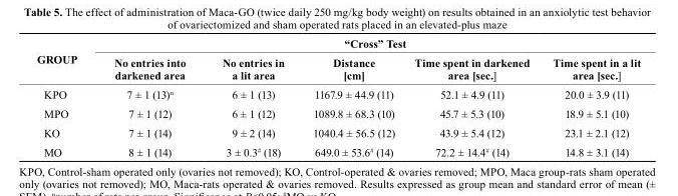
<table><thead><tr><td rowspan="2">GrOUP</td><td colspan="5">“cross” test</td></tr><tr><td>No entries into darkened area</td><td>No entries in a lit area</td><td>Distance [cm]</td><td>time spent in darkened area [sec.]</td><td>time spent in a lit area [sec.]</td></tr></thead><tbody><tr><td>KPO</td><td>7 ± 1 (13)<sup>n</sup></td><td>6 ± 1 (13)</td><td>1167.9 ± 44.9 (11)</td><td>52.1 ± 4.9 (11)</td><td>20.0 ± 3.9 (11)</td></tr><tr><td>MPO</td><td>7 ± 1 (12)</td><td>6 ± 1 (12)</td><td>1089.8 ± 68.3 (10)</td><td>45.7 ± 5.3 (10)</td><td>18.9 ± 5.1 (10)</td></tr><tr><td>KO</td><td>7 ± 1 (14)</td><td>9 ± 2 (14)</td><td>1040.4 ± 56.5 (12)</td><td>43.9 ± 5.4 (12)</td><td>23.1 ± 2.1 (12)</td></tr><tr><td>MO</td><td>8 ± 1 (14)</td><td>3 ± 0.3# (18)</td><td>649.0 ± 53.6# (14)</td><td>72.2 ± 14.4# (14)</td><td>14.8 ± 3.1 (14)</td></tr></tbody></table>